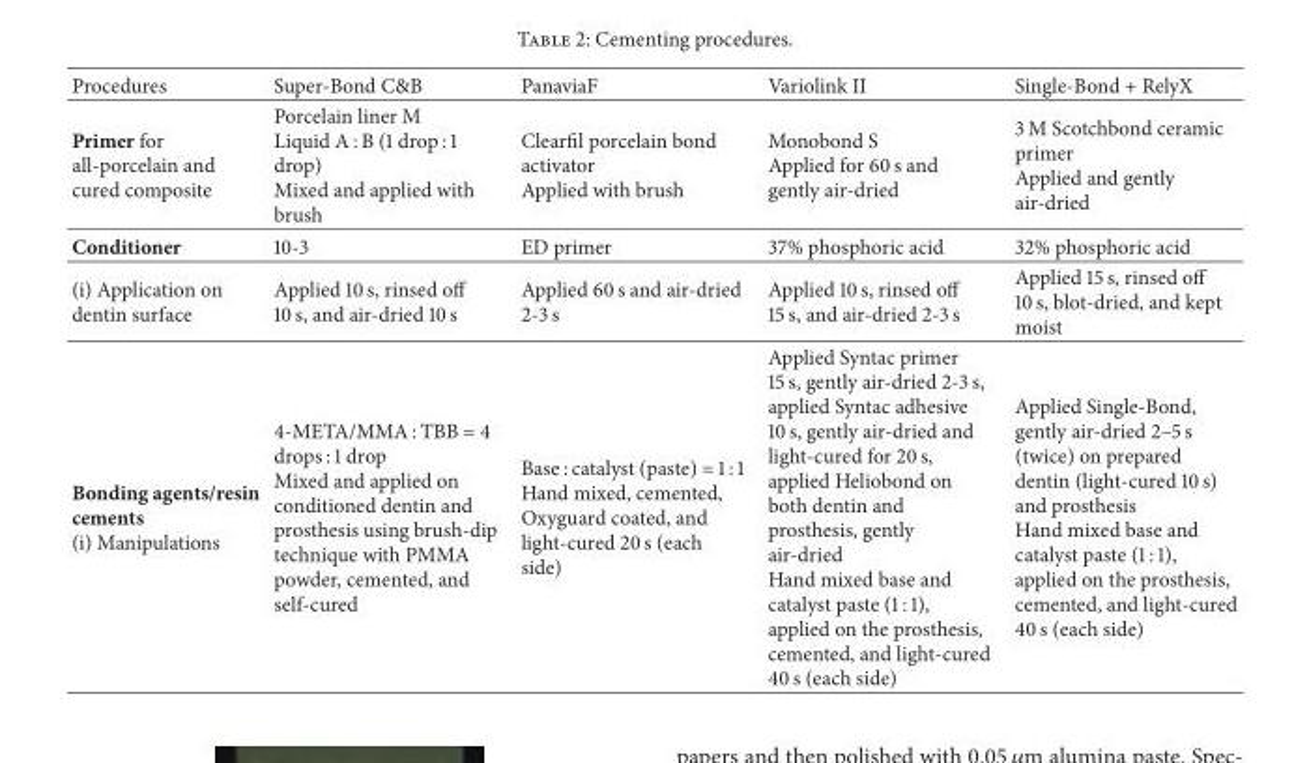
<table><thead><tr><td>Procedures</td><td>Super-Bond C&amp;B</td><td>PanaviaF</td><td>Variolink II</td><td>Single-Bond + RelyX</td></tr></thead><tbody><tr><td>Primer for all-porcelain and cured composite</td><td>Porcelain liner M Liquid A : B (1 drop : 1 drop) Mixed and applied with brush</td><td>Clearfil porcelain bond activator Applied with brush</td><td>Monobond S Applied for 60 s and gently air-dried</td><td>3 M Scotchbond ceramic primer Applied and gently air-dried</td></tr><tr><td>Conditioner</td><td>10-3</td><td>ED primer</td><td>37% phosphoric acid</td><td>32% phosphoric acid</td></tr><tr><td>(i) Application on dentin surface</td><td>Applied 10 s, rinsed off 10 s, and air-dried 10 s</td><td>Applied 60 s and air-dried 2-3 s</td><td>Applied 10 s, rinsed off 15 s, and air-dried 2-3 s</td><td>Applied 15 s, rinsed off 10 s, blot-dried, and kept moist</td></tr><tr><td>Bonding agents/resin cements (i) Manipulations</td><td>4-META/MMA : TBB = 4 drops : 1 drop Mixed and applied on conditioned dentin and prosthesis using brush-dip technique with PMMA powder, cemented, and self-cured</td><td>Base : catalyst (paste) = 1 : 1 Hand mixed, cemented, Oxyguard coated, and light-cured 20 s (each side)</td><td>Applied Syntac primer 15 s, gently air-dried 2-3 s, applied Syntac adhesive 10 s, gently air-dried and light-cured for 20 s, applied Heliobond on both dentin and prosthesis, gently air-dried Hand mixed base and catalyst paste (1 : 1), applied on the prosthesis, cemented, and light-cured 40 s (each side)</td><td>Applied Single-Bond, gently air-dried 2–5 s (twice) on prepared dentin (light-cured 10 s) and prosthesis Hand mixed base and catalyst paste (1 : 1), applied on the prosthesis, cemented, and light-cured 40 s (each side)</td></tr></tbody></table>